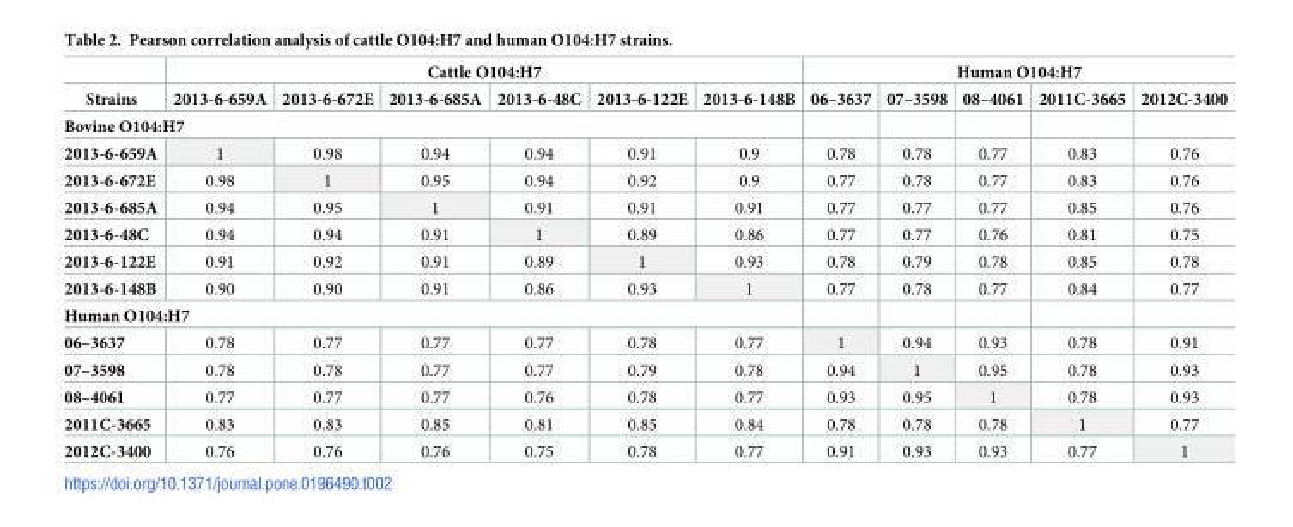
<table><thead><tr><td rowspan="2">Strains</td><td colspan="6">Cattle O104:H7</td><td colspan="5">Human O104:H7</td></tr><tr><td>2013-6-659A</td><td>2013-6-672E</td><td>2013-6-685A</td><td>2013-6-48C</td><td>2013-6-122E</td><td>2013-6-148B</td><td>06–3637</td><td>07–3598</td><td>08–4061</td><td>2011C-3665</td><td>2012C-3400</td></tr></thead><tbody><tr><td colspan="12">Bovine O104:H7</td></tr><tr><td>2013-6-659A</td><td>1</td><td>0.98</td><td>0.94</td><td>0.94</td><td>0.91</td><td>0.9</td><td>0.78</td><td>0.78</td><td>0.77</td><td>0.83</td><td>0.76</td></tr><tr><td>2013-6-672E</td><td>0.98</td><td>1</td><td>0.95</td><td>0.94</td><td>0.92</td><td>0.9</td><td>0.77</td><td>0.78</td><td>0.77</td><td>0.83</td><td>0.76</td></tr><tr><td>2013-6-685A</td><td>0.94</td><td>0.95</td><td>1</td><td>0.91</td><td>0.91</td><td>0.91</td><td>0.77</td><td>0.77</td><td>0.77</td><td>0.85</td><td>0.76</td></tr><tr><td>2013-6-48C</td><td>0.94</td><td>0.94</td><td>0.91</td><td>1</td><td>0.89</td><td>0.86</td><td>0.77</td><td>0.77</td><td>0.76</td><td>0.81</td><td>0.75</td></tr><tr><td>2013-6-122E</td><td>0.91</td><td>0.92</td><td>0.91</td><td>0.89</td><td>1</td><td>0.93</td><td>0.78</td><td>0.79</td><td>0.78</td><td>0.85</td><td>0.78</td></tr><tr><td>2013-6-148B</td><td>0.90</td><td>0.90</td><td>0.91</td><td>0.86</td><td>0.93</td><td>1</td><td>0.77</td><td>0.78</td><td>0.77</td><td>0.84</td><td>0.77</td></tr><tr><td colspan="12">Human O104:H7</td></tr><tr><td>06–3637</td><td>0.78</td><td>0.77</td><td>0.77</td><td>0.77</td><td>0.78</td><td>0.77</td><td>1</td><td>0.94</td><td>0.93</td><td>0.78</td><td>0.91</td></tr><tr><td>07–3598</td><td>0.78</td><td>0.78</td><td>0.77</td><td>0.77</td><td>0.79</td><td>0.78</td><td>0.94</td><td>1</td><td>0.95</td><td>0.78</td><td>0.93</td></tr><tr><td>08–4061</td><td>0.77</td><td>0.77</td><td>0.77</td><td>0.76</td><td>0.78</td><td>0.77</td><td>0.93</td><td>0.95</td><td>1</td><td>0.78</td><td>0.93</td></tr><tr><td>2011C-3665</td><td>0.83</td><td>0.83</td><td>0.85</td><td>0.81</td><td>0.85</td><td>0.84</td><td>0.78</td><td>0.78</td><td>0.78</td><td>1</td><td>0.77</td></tr><tr><td>2012C-3400</td><td>0.76</td><td>0.76</td><td>0.76</td><td>0.75</td><td>0.78</td><td>0.77</td><td>0.91</td><td>0.93</td><td>0.93</td><td>0.77</td><td>1</td></tr></tbody></table>